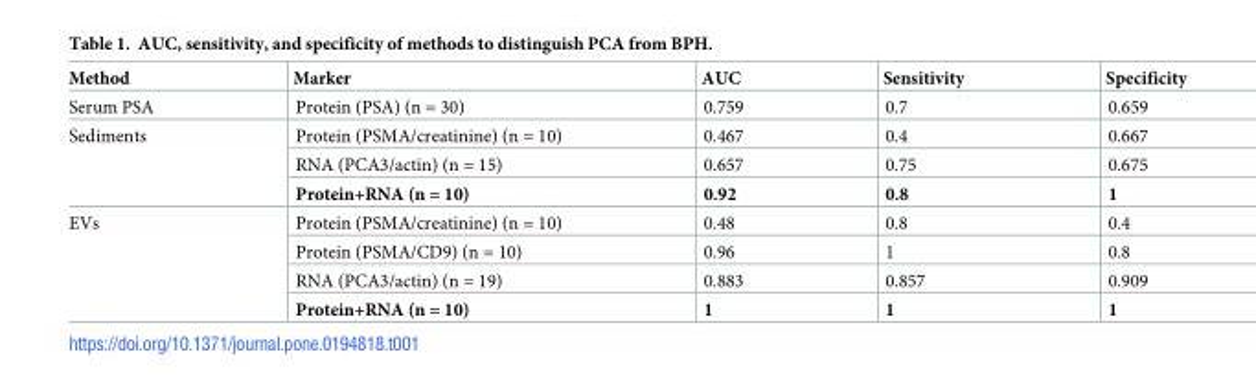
<table><thead><tr><td>Method</td><td>Marker</td><td>AUC</td><td>Sensitivity</td><td>Specificity</td></tr></thead><tbody><tr><td>Serum PSA</td><td>Protein (PSA) (n = 30)</td><td>0.759</td><td>0.7</td><td>0.659</td></tr><tr><td rowspan="3">Sediments</td><td>Protein (PSMA/creatinine) (n = 10)</td><td>0.467</td><td>0.4</td><td>0.667</td></tr><tr><td>RNA (PCA3/actin) (n = 15)</td><td>0.657</td><td>0.75</td><td>0.675</td></tr><tr><td>Protein+RNA (n = 10)</td><td>0.92</td><td>0.8</td><td>1</td></tr><tr><td rowspan="4">EVs</td><td>Protein (PSMA/creatinine) (n = 10)</td><td>0.48</td><td>0.8</td><td>0.4</td></tr><tr><td>Protein (PSMA/CD9) (n = 10)</td><td>0.96</td><td>1</td><td>0.8</td></tr><tr><td>RNA (PCA3/actin) (n = 19)</td><td>0.883</td><td>0.857</td><td>0.909</td></tr><tr><td>Protein+RNA (n = 10)</td><td>1</td><td>1</td><td>1</td></tr></tbody></table>